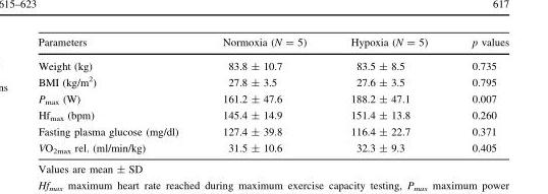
<table><thead><tr><td>Parameters</td><td>Normoxia (N = 5)</td><td>Hypoxia (N = 5)</td><td>p values</td></tr></thead><tbody><tr><td>Weight (kg)</td><td>83.8 ± 10.7</td><td>83.5 ± 8.5</td><td>0.735</td></tr><tr><td>BMI (kg/m<sup>2</sup>)</td><td>27.8 ± 3.5</td><td>27.6 ± 3.5</td><td>0.795</td></tr><tr><td>P<sub>max</sub> (W)</td><td>161.2 ± 47.6</td><td>188.2 ± 47.1</td><td>0.007</td></tr><tr><td>Hf<sub>max</sub> (bpm)</td><td>145.4 ± 14.9</td><td>151.4 ± 13.8</td><td>0.260</td></tr><tr><td>Fasting plasma glucose (mg/dl)</td><td>127.4 ± 39.8</td><td>116.4 ± 22.7</td><td>0.371</td></tr><tr><td>VO<sub>2max</sub> rel. (ml/min/kg)</td><td>31.5 ± 10.6</td><td>32.3 ± 9.3</td><td>0.405</td></tr></tbody></table>